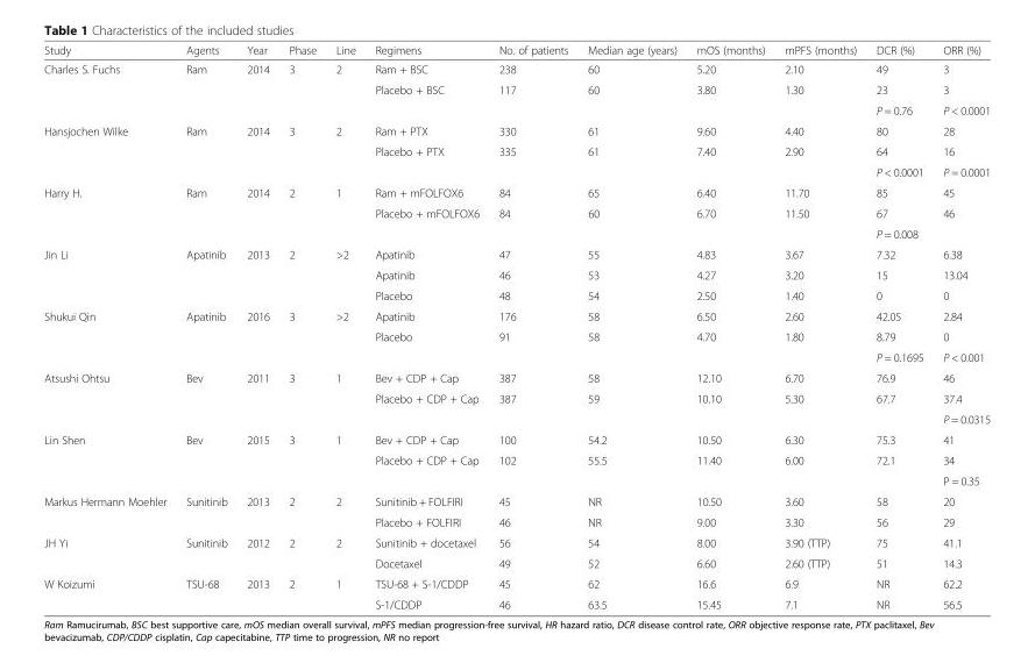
<table><thead><tr><td>Study</td><td>Agents</td><td>Year</td><td>Phase</td><td>Line</td><td>Regimens</td><td>No. of patients</td><td>Median age (years)</td><td>mOS (months)</td><td>mPFS (months)</td><td>DCR (%)</td><td>ORR (%)</td></tr></thead><tbody><tr><td rowspan="3">Charles S. Fuchs</td><td>Ram</td><td>2014</td><td>3</td><td>2</td><td>Ram + BSC</td><td>238</td><td>60</td><td>5.20</td><td>2.10</td><td>49</td><td>3</td></tr><tr><td></td><td></td><td></td><td></td><td>Placebo + BSC</td><td>117</td><td>60</td><td>3.80</td><td>1.30</td><td>23</td><td>3</td></tr><tr><td></td><td></td><td></td><td></td><td></td><td></td><td></td><td></td><td></td><td>P = 0.76</td><td>P &lt; 0.0001</td></tr><tr><td rowspan="3">Hansjochen Wilke</td><td>Ram</td><td>2014</td><td>3</td><td>2</td><td>Ram + PTX</td><td>330</td><td>61</td><td>9.60</td><td>4.40</td><td>80</td><td>28</td></tr><tr><td></td><td></td><td></td><td></td><td>Placebo + PTX</td><td>335</td><td>61</td><td>7.40</td><td>2.90</td><td>64</td><td>16</td></tr><tr><td></td><td></td><td></td><td></td><td></td><td></td><td></td><td></td><td></td><td>P &lt; 0.0001</td><td>P = 0.0001</td></tr><tr><td rowspan="3">Harry H.</td><td>Ram</td><td>2014</td><td>2</td><td>1</td><td>Ram + mFOLFOX6</td><td>84</td><td>65</td><td>6.40</td><td>11.70</td><td>85</td><td>45</td></tr><tr><td></td><td></td><td></td><td></td><td>Placebo + mFOLFOX6</td><td>84</td><td>60</td><td>6.70</td><td>11.50</td><td>67</td><td>46</td></tr><tr><td></td><td></td><td></td><td></td><td></td><td></td><td></td><td></td><td></td><td>P = 0.008</td><td></td></tr><tr><td rowspan="3">Jin Li</td><td>Apatinib</td><td>2013</td><td>2</td><td>&gt;2</td><td>Apatinib</td><td>47</td><td>55</td><td>4.83</td><td>3.67</td><td>7.32</td><td>6.38</td></tr><tr><td></td><td></td><td></td><td></td><td>Apatinib</td><td>46</td><td>53</td><td>4.27</td><td>3.20</td><td>15</td><td>13.04</td></tr><tr><td></td><td></td><td></td><td></td><td>Placebo</td><td>48</td><td>54</td><td>2.50</td><td>1.40</td><td>0</td><td>0</td></tr><tr><td rowspan="3">Shukui Qin</td><td>Apatinib</td><td>2016</td><td>3</td><td>&gt;2</td><td>Apatinib</td><td>176</td><td>58</td><td>6.50</td><td>2.60</td><td>42.05</td><td>2.84</td></tr><tr><td></td><td></td><td></td><td></td><td>Placebo</td><td>91</td><td>58</td><td>4.70</td><td>1.80</td><td>8.79</td><td>0</td></tr><tr><td></td><td></td><td></td><td></td><td></td><td></td><td></td><td></td><td></td><td>P = 0.1695</td><td>P &lt; 0.001</td></tr><tr><td rowspan="3">Atsushi Ohtsu</td><td>Bev</td><td>2011</td><td>3</td><td>1</td><td>Bev + CDP + Cap</td><td>387</td><td>58</td><td>12.10</td><td>6.70</td><td>76.9</td><td>46</td></tr><tr><td></td><td></td><td></td><td></td><td>Placebo + CDP + Cap</td><td>387</td><td>59</td><td>10.10</td><td>5.30</td><td>67.7</td><td>37.4</td></tr><tr><td></td><td></td><td></td><td></td><td></td><td></td><td></td><td></td><td></td><td></td><td>P = 0.0315</td></tr><tr><td rowspan="3">Lin Shen</td><td>Bev</td><td>2015</td><td>3</td><td>1</td><td>Bev + CDP + Cap</td><td>100</td><td>54.2</td><td>10.50</td><td>6.30</td><td>75.3</td><td>41</td></tr><tr><td></td><td></td><td></td><td></td><td>Placebo + CDP + Cap</td><td>102</td><td>55.5</td><td>11.40</td><td>6.00</td><td>72.1</td><td>34</td></tr><tr><td></td><td></td><td></td><td></td><td></td><td></td><td></td><td></td><td></td><td></td><td>P = 0.35</td></tr><tr><td rowspan="2">Markus Hermann Moehler</td><td>Sunitinib</td><td>2013</td><td>2</td><td>2</td><td>Sunitinib + FOLFIRI</td><td>45</td><td>NR</td><td>10.50</td><td>3.60</td><td>58</td><td>20</td></tr><tr><td></td><td></td><td></td><td></td><td>Placebo + FOLFIRI</td><td>46</td><td>NR</td><td>9.00</td><td>3.30</td><td>56</td><td>29</td></tr><tr><td rowspan="2">JH Yi</td><td rowspan="2">Sunitinib</td><td rowspan="2">2012</td><td rowspan="2">2</td><td rowspan="2">2</td><td>Sunitinib + docetaxel</td><td>56</td><td>54</td><td>8.00</td><td>3.90 (TTP)</td><td>75</td><td>41.1</td></tr><tr><td>Docetaxel</td><td>49</td><td>52</td><td>6.60</td><td>2.60 (TTP)</td><td>51</td><td>14.3</td></tr><tr><td rowspan="2">W Koizumi</td><td rowspan="2">TSU-68</td><td rowspan="2">2013</td><td rowspan="2">2</td><td rowspan="2">1</td><td>TSU-68 + S-1/CDDP</td><td>45</td><td>62</td><td>16.6</td><td>6.9</td><td>NR</td><td>62.2</td></tr><tr><td>S-1/CDDP</td><td>46</td><td>63.5</td><td>15.45</td><td>7.1</td><td>NR</td><td>56.5</td></tr></tbody></table>